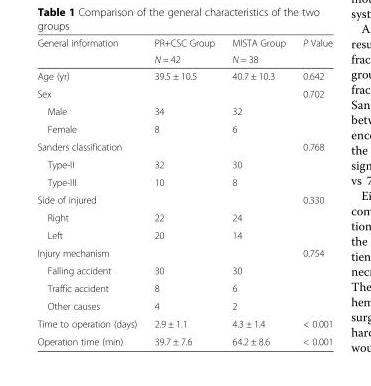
<table><thead><tr><td rowspan="2">General information</td><td rowspan="2">PR+CSC Group N = 42</td><td rowspan="2">MISTA Group N = 38</td><td rowspan="2">P Value</td></tr><tr></tr></thead><tbody><tr><td>Age (yr)</td><td>39.5 ± 10.5</td><td>40.7 ± 10.3</td><td>0.642</td></tr><tr><td>Sex</td><td></td><td></td><td>0.702</td></tr><tr><td>Male</td><td>34</td><td>32</td><td></td></tr><tr><td>Female</td><td>8</td><td>6</td><td></td></tr><tr><td>Sanders classification</td><td></td><td></td><td>0.768</td></tr><tr><td>Type-II</td><td>32</td><td>30</td><td></td></tr><tr><td>Type-III</td><td>10</td><td>8</td><td></td></tr><tr><td>Side of injured</td><td></td><td></td><td>0.330</td></tr><tr><td>Right</td><td>22</td><td>24</td><td></td></tr><tr><td>Left</td><td>20</td><td>14</td><td></td></tr><tr><td>Injury mechanism</td><td></td><td></td><td>0.754</td></tr><tr><td>Falling accident</td><td>30</td><td>30</td><td></td></tr><tr><td>Traffic accident</td><td>8</td><td>6</td><td></td></tr><tr><td>Other causes</td><td>4</td><td>2</td><td></td></tr><tr><td>Time to operation (days)</td><td>2.9 ± 1.1</td><td>4.3 ± 1.4</td><td>&lt; 0.001</td></tr><tr><td>Operation time (min)</td><td>39.7 ± 7.6</td><td>64.2 ± 8.6</td><td>&lt; 0.001</td></tr></tbody></table>